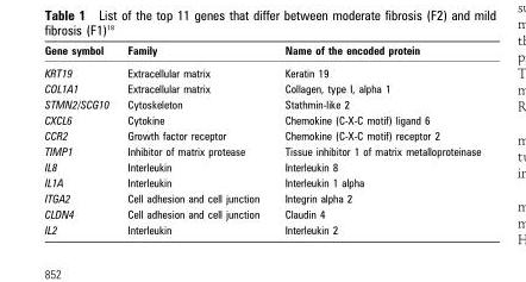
<table><thead><tr><td>Gene symbol</td><td>Family</td><td>Name of the encoded protein</td></tr></thead><tbody><tr><td>KRT19</td><td>Extracellular matrix</td><td>Keratin 19</td></tr><tr><td>COL1A1</td><td>Extracellular matrix</td><td>Collagen, type I, alpha 1</td></tr><tr><td>STMN2/SCG10</td><td>Cytoskeleton</td><td>Stathmin-like 2</td></tr><tr><td>CXCL6</td><td>Cytokine</td><td>Chemokine (C-X-C motif) ligand 6</td></tr><tr><td>CCR2</td><td>Growth factor receptor</td><td>Chemokine (C-X-C motif) receptor 2</td></tr><tr><td>TIMP1</td><td>Inhibitor of matrix protease</td><td>Tissue inhibitor 1 of matrix metalloproteinase</td></tr><tr><td>IL8</td><td>Interleukin</td><td>Interleukin 8</td></tr><tr><td>IL1A</td><td>Interleukin</td><td>Interleukin 1 alpha</td></tr><tr><td>ITGA2</td><td>Cell adhesion and cell junction</td><td>Integrin alpha 2</td></tr><tr><td>CLDN4</td><td>Cell adhesion and cell junction</td><td>Claudin 4</td></tr><tr><td>IL2</td><td>Interleukin</td><td>Interleukin 2</td></tr></tbody></table>